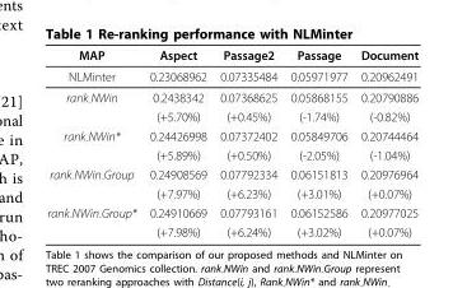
<table><thead><tr><td>MAP</td><td>Aspect</td><td>Passage2</td><td>Passage</td><td>Document</td></tr></thead><tbody><tr><td>NLMinter</td><td>0.23068962</td><td>0.07335484</td><td>0.05971977</td><td>0.20962491</td></tr><tr><td rowspan="2">rank<sub>-</sub>NWin</td><td>0.2438342</td><td>0.07368625</td><td>0.05868155</td><td>0.20790886</td></tr><tr><td>(+5.70%)</td><td>(+0.45%)</td><td>(-1.74%)</td><td>(-0.82%)</td></tr><tr><td rowspan="2">rank<sub>-</sub>NWin*</td><td>0.24426998</td><td>0.07372402</td><td>0.05849706</td><td>0.20744464</td></tr><tr><td>(+5.89%)</td><td>(+0.50%)</td><td>(-2.05%)</td><td>(-1.04%)</td></tr><tr><td rowspan="2">rank<sub>-</sub>NWin<sub>-</sub>Group</td><td>0.24908569</td><td>0.07792334</td><td>0.06151813</td><td>0.20976964</td></tr><tr><td>(+7.97%)</td><td>(+6.23%)</td><td>(+3.01%)</td><td>(+0.07%)</td></tr><tr><td rowspan="2">rank<sub>-</sub>NWin<sub>-</sub>Group*</td><td>0.24910669</td><td>0.07793161</td><td>0.06152586</td><td>0.20977025</td></tr><tr><td>(+7.98%)</td><td>(+6.24%)</td><td>(+3.02%)</td><td>(+0.07%)</td></tr></tbody></table>